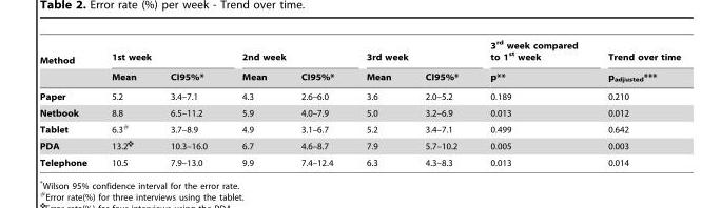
<table><thead><tr><td rowspan="2">Method</td><td colspan="2">1st week</td><td colspan="2">2nd week</td><td colspan="2">3rd week</td><td rowspan="2">3<sup>rd</sup> week compared to 1<sup>st</sup> week p**</td><td rowspan="2">Trend over time p<sub>adjusted</sub>***</td></tr><tr><td>Mean</td><td>CI95%*</td><td>Mean</td><td>CI95%*</td><td>Mean</td><td>CI95%*</td></tr></thead><tbody><tr><td>Paper</td><td>5.2</td><td>3.4–7.1</td><td>4.3</td><td>2.6–6.0</td><td>3.6</td><td>2.0–5.2</td><td>0.189</td><td>0.210</td></tr><tr><td>Netbook</td><td>8.8</td><td>6.5–11.2</td><td>5.9</td><td>4.0–7.9</td><td>5.0</td><td>3.2–6.9</td><td>0.013</td><td>0.012</td></tr><tr><td>Tablet</td><td>6.3#</td><td>3.7–8.9</td><td>4.9</td><td>3.1–6.7</td><td>5.2</td><td>3.4–7.1</td><td>0.499</td><td>0.642</td></tr><tr><td>PDA</td><td>13.2</td><td>10.3–16.0</td><td>6.7</td><td>4.6–8.7</td><td>7.9</td><td>5.7–10.2</td><td>0.005</td><td>0.003</td></tr><tr><td>Telephone</td><td>10.5</td><td>7.9–13.0</td><td>9.9</td><td>7.4–12.4</td><td>6.3</td><td>4.3–8.3</td><td>0.013</td><td>0.014</td></tr></tbody></table>